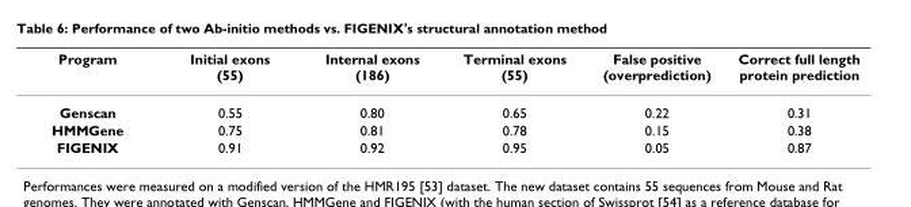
<table><thead><tr><td>Program</td><td>Initial exons (55)</td><td>Internal exons (186)</td><td>Terminal exons (55)</td><td>False positive (overprediction)</td><td>Correct full length protein prediction</td></tr></thead><tbody><tr><td>Genscan</td><td>0.55</td><td>0.80</td><td>0.65</td><td>0.22</td><td>0.31</td></tr><tr><td>HMMGene</td><td>0.75</td><td>0.81</td><td>0.78</td><td>0.15</td><td>0.38</td></tr><tr><td>FIGENIX</td><td>0.91</td><td>0.92</td><td>0.95</td><td>0.05</td><td>0.87</td></tr></tbody></table>